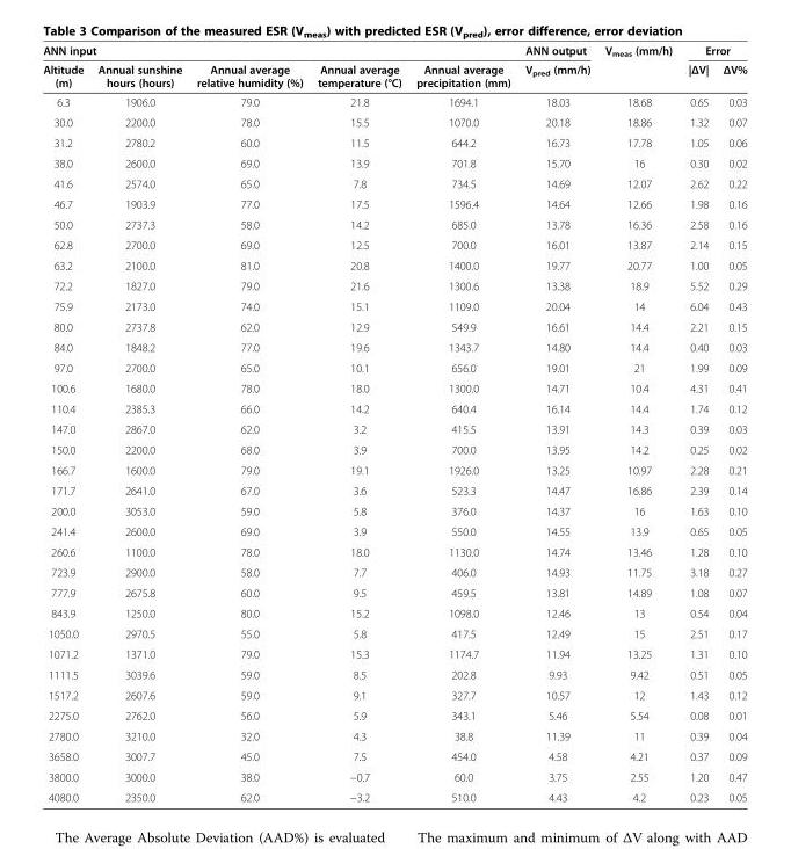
<table><thead><tr><td colspan="5">ANN input</td><td rowspan="2">ANN output V<sub>pred</sub> (mm/h)</td><td rowspan="2">V<sub>meas</sub> (mm/h)</td><td colspan="2">Error</td></tr><tr><td>Altitude (m)</td><td>Annual sunshine hours (hours)</td><td>Annual average relative humidity (%)</td><td>Annual average temperature (°C)</td><td>Annual average precipitation (mm)</td><td>|ΔV|</td><td>ΔV%</td></tr></thead><tbody><tr><td>6.3</td><td>1906.0</td><td>79.0</td><td>21.8</td><td>1694.1</td><td>18.03</td><td>18.68</td><td>0.65</td><td>0.03</td></tr><tr><td>30.0</td><td>2200.0</td><td>78.0</td><td>15.5</td><td>1070.0</td><td>20.18</td><td>18.86</td><td>1.32</td><td>0.07</td></tr><tr><td>31.2</td><td>2780.2</td><td>60.0</td><td>11.5</td><td>644.2</td><td>16.73</td><td>17.78</td><td>1.05</td><td>0.06</td></tr><tr><td>38.0</td><td>2600.0</td><td>69.0</td><td>13.9</td><td>701.8</td><td>15.70</td><td>16</td><td>0.30</td><td>0.02</td></tr><tr><td>41.6</td><td>2574.0</td><td>65.0</td><td>7.8</td><td>734.5</td><td>14.69</td><td>12.07</td><td>2.62</td><td>0.22</td></tr><tr><td>46.7</td><td>1903.9</td><td>77.0</td><td>17.5</td><td>1596.4</td><td>14.64</td><td>12.66</td><td>1.98</td><td>0.16</td></tr><tr><td>50.0</td><td>2737.3</td><td>58.0</td><td>14.2</td><td>685.0</td><td>13.78</td><td>16.36</td><td>2.58</td><td>0.16</td></tr><tr><td>62.8</td><td>2700.0</td><td>69.0</td><td>12.5</td><td>700.0</td><td>16.01</td><td>13.87</td><td>2.14</td><td>0.15</td></tr><tr><td>63.2</td><td>2100.0</td><td>81.0</td><td>20.8</td><td>1400.0</td><td>19.77</td><td>20.77</td><td>1.00</td><td>0.05</td></tr><tr><td>72.2</td><td>1827.0</td><td>79.0</td><td>21.6</td><td>1300.6</td><td>13.38</td><td>18.9</td><td>5.52</td><td>0.29</td></tr><tr><td>75.9</td><td>2173.0</td><td>74.0</td><td>15.1</td><td>1109.0</td><td>20.04</td><td>14</td><td>6.04</td><td>0.43</td></tr><tr><td>80.0</td><td>2737.8</td><td>62.0</td><td>12.9</td><td>549.9</td><td>16.61</td><td>14.4</td><td>2.21</td><td>0.15</td></tr><tr><td>84.0</td><td>1848.2</td><td>77.0</td><td>19.6</td><td>1343.7</td><td>14.80</td><td>14.4</td><td>0.40</td><td>0.03</td></tr><tr><td>97.0</td><td>2700.0</td><td>65.0</td><td>10.1</td><td>656.0</td><td>19.01</td><td>21</td><td>1.99</td><td>0.09</td></tr><tr><td>100.6</td><td>1680.0</td><td>78.0</td><td>18.0</td><td>1300.0</td><td>14.71</td><td>10.4</td><td>4.31</td><td>0.41</td></tr><tr><td>110.4</td><td>2385.3</td><td>66.0</td><td>14.2</td><td>640.4</td><td>16.14</td><td>14.4</td><td>1.74</td><td>0.12</td></tr><tr><td>147.0</td><td>2867.0</td><td>62.0</td><td>3.2</td><td>415.5</td><td>13.91</td><td>14.3</td><td>0.39</td><td>0.03</td></tr><tr><td>150.0</td><td>2200.0</td><td>68.0</td><td>3.9</td><td>700.0</td><td>13.95</td><td>14.2</td><td>0.25</td><td>0.02</td></tr><tr><td>166.7</td><td>1600.0</td><td>79.0</td><td>19.1</td><td>1926.0</td><td>13.25</td><td>10.97</td><td>2.28</td><td>0.21</td></tr><tr><td>171.7</td><td>2641.0</td><td>67.0</td><td>3.6</td><td>523.3</td><td>14.47</td><td>16.86</td><td>2.39</td><td>0.14</td></tr><tr><td>200.0</td><td>3053.0</td><td>59.0</td><td>5.8</td><td>376.0</td><td>14.37</td><td>16</td><td>1.63</td><td>0.10</td></tr><tr><td>241.4</td><td>2600.0</td><td>69.0</td><td>3.9</td><td>550.0</td><td>14.55</td><td>13.9</td><td>0.65</td><td>0.05</td></tr><tr><td>260.6</td><td>1100.0</td><td>78.0</td><td>18.0</td><td>1130.0</td><td>14.74</td><td>13.46</td><td>1.28</td><td>0.10</td></tr><tr><td>723.9</td><td>2900.0</td><td>58.0</td><td>7.7</td><td>406.0</td><td>14.93</td><td>11.75</td><td>3.18</td><td>0.27</td></tr><tr><td>777.9</td><td>2675.8</td><td>60.0</td><td>9.5</td><td>459.5</td><td>13.81</td><td>14.89</td><td>1.08</td><td>0.07</td></tr><tr><td>843.9</td><td>1250.0</td><td>80.0</td><td>15.2</td><td>1098.0</td><td>12.46</td><td>13</td><td>0.54</td><td>0.04</td></tr><tr><td>1050.0</td><td>2970.5</td><td>55.0</td><td>5.8</td><td>417.5</td><td>12.49</td><td>15</td><td>2.51</td><td>0.17</td></tr><tr><td>1071.2</td><td>1371.0</td><td>79.0</td><td>15.3</td><td>1174.7</td><td>11.94</td><td>13.25</td><td>1.31</td><td>0.10</td></tr><tr><td>1111.5</td><td>3039.6</td><td>59.0</td><td>8.5</td><td>202.8</td><td>9.93</td><td>9.42</td><td>0.51</td><td>0.05</td></tr><tr><td>1517.2</td><td>2607.6</td><td>59.0</td><td>9.1</td><td>327.7</td><td>10.57</td><td>12</td><td>1.43</td><td>0.12</td></tr><tr><td>2275.0</td><td>2762.0</td><td>56.0</td><td>5.9</td><td>343.1</td><td>5.46</td><td>5.54</td><td>0.08</td><td>0.01</td></tr><tr><td>2780.0</td><td>3210.0</td><td>32.0</td><td>4.3</td><td>38.8</td><td>11.39</td><td>11</td><td>0.39</td><td>0.04</td></tr><tr><td>3658.0</td><td>3007.7</td><td>45.0</td><td>7.5</td><td>454.0</td><td>4.58</td><td>4.21</td><td>0.37</td><td>0.09</td></tr><tr><td>3800.0</td><td>3000.0</td><td>38.0</td><td>−0.7</td><td>60.0</td><td>3.75</td><td>2.55</td><td>1.20</td><td>0.47</td></tr><tr><td>4080.0</td><td>2350.0</td><td>62.0</td><td>−3.2</td><td>510.0</td><td>4.43</td><td>4.2</td><td>0.23</td><td>0.05</td></tr></tbody></table>